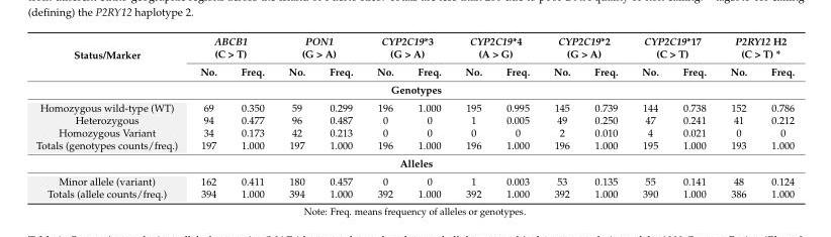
<table><thead><tr><td rowspan="2">Status/Marker</td><td colspan="2">ABCB1 (C &gt; T)</td><td colspan="2">PON1 (G &gt; A)</td><td colspan="2">CYP2C19*3 (G &gt; A)</td><td colspan="2">CYP2C19*4 (A &gt; G)</td><td colspan="2">CYP2C19*2 (G &gt; A)</td><td colspan="2">CYP2C19*17 (C &gt; T)</td><td colspan="2">P2RY12 H2 (C &gt; T) *</td></tr><tr><td>No.</td><td>Freq.</td><td>No.</td><td>Freq.</td><td>No.</td><td>Freq.</td><td>No.</td><td>Freq.</td><td>No.</td><td>Freq.</td><td>No.</td><td>Freq.</td><td>No.</td><td>Freq.</td></tr></thead><tbody><tr><td colspan="15">Genotypes</td></tr><tr><td>Homozygous wild-type (WT)</td><td>69</td><td>0.350</td><td>59</td><td>0.299</td><td>196</td><td>1.000</td><td>195</td><td>0.995</td><td>145</td><td>0.739</td><td>144</td><td>0.738</td><td>152</td><td>0.786</td></tr><tr><td>Heterozygous</td><td>94</td><td>0.477</td><td>96</td><td>0.487</td><td>0</td><td>0</td><td>1</td><td>0.005</td><td>49</td><td>0.250</td><td>47</td><td>0.241</td><td>41</td><td>0.212</td></tr><tr><td>Homozygous Variant</td><td>34</td><td>0.173</td><td>42</td><td>0.213</td><td>0</td><td>0</td><td>0</td><td>0</td><td>2</td><td>0.010</td><td>4</td><td>0.021</td><td>0</td><td>0</td></tr><tr><td>Totals (genotypes counts/freq.)</td><td>197</td><td>1.000</td><td>197</td><td>1.000</td><td>196</td><td>1.000</td><td>196</td><td>1.000</td><td>196</td><td>1.000</td><td>195</td><td>1.000</td><td>193</td><td>1.000</td></tr><tr><td colspan="15">Alleles</td></tr><tr><td>Minor allele (variant)</td><td>162</td><td>0.411</td><td>180</td><td>0.457</td><td>0</td><td>0</td><td>1</td><td>0.003</td><td>53</td><td>0.135</td><td>55</td><td>0.141</td><td>48</td><td>0.124</td></tr><tr><td>Totals (allele counts/freq.)</td><td>394</td><td>1.000</td><td>394</td><td>1.000</td><td>392</td><td>1.000</td><td>392</td><td>1.000</td><td>392</td><td>1.000</td><td>390</td><td>1.000</td><td>386</td><td>1.000</td></tr></tbody></table>